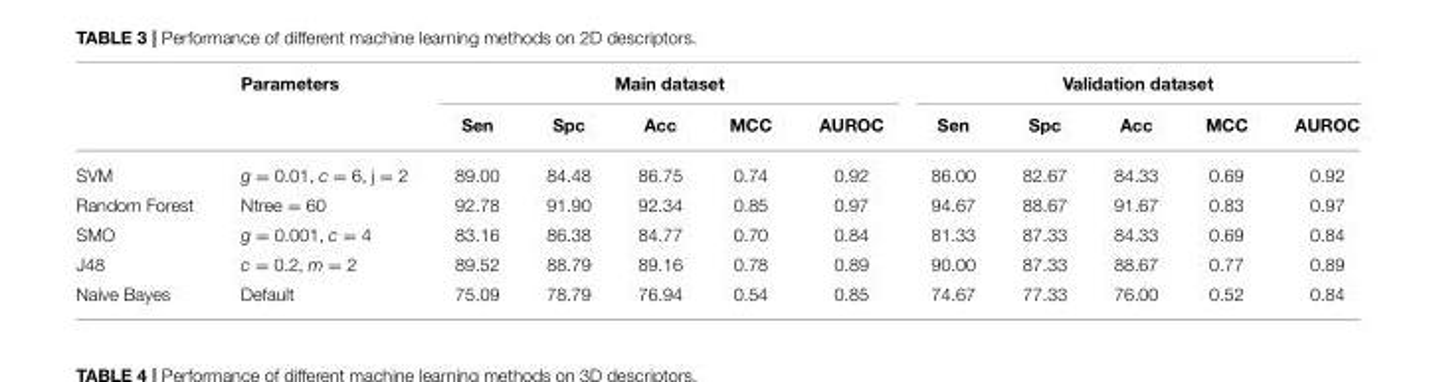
<table><thead><tr><td rowspan="2"></td><td rowspan="2">Parameters</td><td colspan="5">Main dataset</td><td colspan="5">Validation dataset</td></tr><tr><td>Sen</td><td>Spc</td><td>Acc</td><td>MCC</td><td>AUROC</td><td>Sen</td><td>Spc</td><td>Acc</td><td>MCC</td><td>AUROC</td></tr></thead><tbody><tr><td>SVM</td><td>g = 0.01, c = 6, j = 2</td><td>89.00</td><td>84.48</td><td>86.75</td><td>0.74</td><td>0.92</td><td>86.00</td><td>82.67</td><td>84.33</td><td>0.69</td><td>0.92</td></tr><tr><td>Random Forest</td><td>Ntree = 60</td><td>92.78</td><td>91.90</td><td>92.34</td><td>0.85</td><td>0.97</td><td>94.67</td><td>88.67</td><td>91.67</td><td>0.83</td><td>0.97</td></tr><tr><td>SMO</td><td>g = 0.001, c = 4</td><td>83.16</td><td>86.38</td><td>84.77</td><td>0.70</td><td>0.84</td><td>81.33</td><td>87.33</td><td>84.33</td><td>0.69</td><td>0.84</td></tr><tr><td>J48</td><td>c = 0.2, m = 2</td><td>89.52</td><td>88.79</td><td>89.16</td><td>0.78</td><td>0.89</td><td>90.00</td><td>87.33</td><td>88.67</td><td>0.77</td><td>0.89</td></tr><tr><td>Naive Bayes</td><td>Default</td><td>75.09</td><td>78.79</td><td>76.94</td><td>0.54</td><td>0.85</td><td>74.67</td><td>77.33</td><td>76.00</td><td>0.52</td><td>0.84</td></tr></tbody></table>